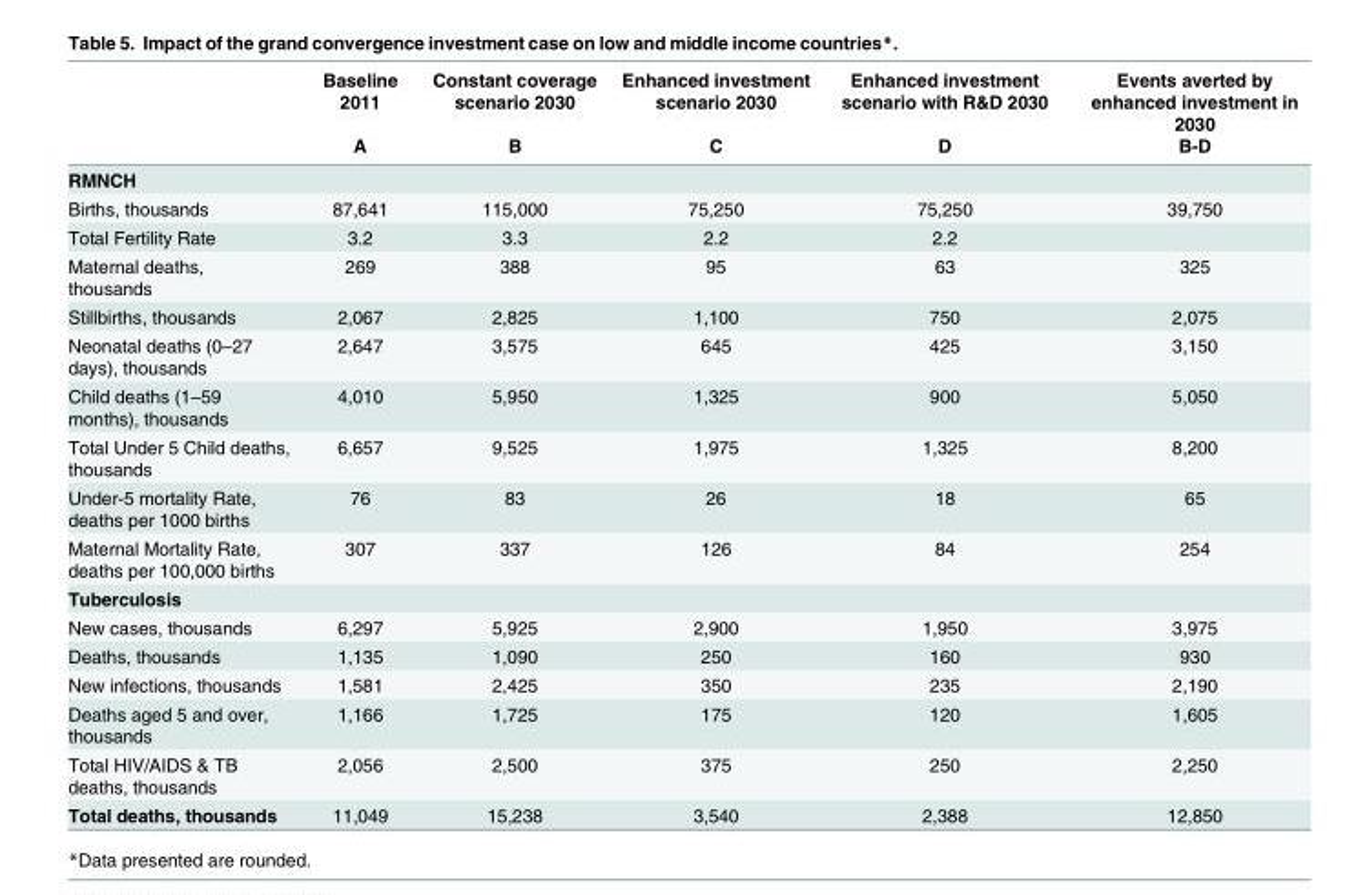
<table><thead><tr><td rowspan="2"></td><td rowspan="2">Baseline 2011 A</td><td rowspan="2">Constant coverage scenario 2030 B</td><td rowspan="2">Enhanced investment scenario 2030 C</td><td rowspan="2">Enhanced investment scenario with R&amp;D 2030 D</td><td rowspan="2">Events averted by enhanced investment in 2030 B-D</td></tr><tr></tr></thead><tbody><tr><td colspan="6">RMNCH</td></tr><tr><td>Births, thousands</td><td>87,641</td><td>115,000</td><td>75,250</td><td>75,250</td><td>39,750</td></tr><tr><td>Total Fertility Rate</td><td>3.2</td><td>3.3</td><td>2.2</td><td>2.2</td><td></td></tr><tr><td>Maternal deaths, thousands</td><td>269</td><td>388</td><td>95</td><td>63</td><td>325</td></tr><tr><td>Stillbirths, thousands</td><td>2,067</td><td>2,825</td><td>1,100</td><td>750</td><td>2,075</td></tr><tr><td>Neonatal deaths (0–27 days), thousands</td><td>2,647</td><td>3,575</td><td>645</td><td>425</td><td>3,150</td></tr><tr><td>Child deaths (1–59 months), thousands</td><td>4,010</td><td>5,950</td><td>1,325</td><td>900</td><td>5,050</td></tr><tr><td>Total Under 5 Child deaths, thousands</td><td>6,657</td><td>9,525</td><td>1,975</td><td>1,325</td><td>8,200</td></tr><tr><td>Under-5 mortality Rate, deaths per 1000 births</td><td>76</td><td>83</td><td>26</td><td>18</td><td>65</td></tr><tr><td>Maternal Mortality Rate, deaths per 100,000 births</td><td>307</td><td>337</td><td>126</td><td>84</td><td>254</td></tr><tr><td colspan="6">Tuberculosis</td></tr><tr><td>New cases, thousands</td><td>6,297</td><td>5,925</td><td>2,900</td><td>1,950</td><td>3,975</td></tr><tr><td>Deaths, thousands</td><td>1,135</td><td>1,090</td><td>250</td><td>160</td><td>930</td></tr><tr><td>New infections, thousands</td><td>1,581</td><td>2,425</td><td>350</td><td>235</td><td>2,190</td></tr><tr><td>Deaths aged 5 and over, thousands</td><td>1,166</td><td>1,725</td><td>175</td><td>120</td><td>1,605</td></tr><tr><td>Total HIV/AIDS &amp; TB deaths, thousands</td><td>2,056</td><td>2,500</td><td>375</td><td>250</td><td>2,250</td></tr><tr><td>Total deaths, thousands</td><td>11,049</td><td>15,238</td><td>3,540</td><td>2,388</td><td>12,850</td></tr></tbody></table>